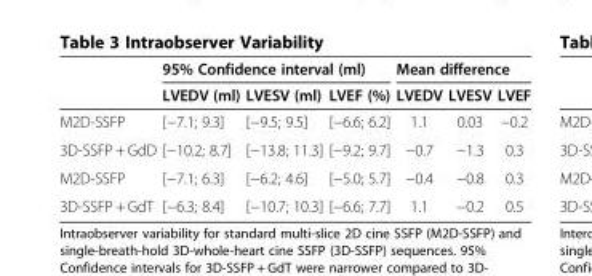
<table><thead><tr><td rowspan="2"></td><td colspan="3">95% Confidence interval (ml)</td><td colspan="3">Mean difference</td></tr><tr><td>LVEDV (ml)</td><td>LVESV (ml)</td><td>LVEF (%)</td><td>LVEDV</td><td>LVESV</td><td>LVEF</td></tr></thead><tbody><tr><td>M2D-SSFP</td><td>[−7.1; 9.3]</td><td>[−9.5; 9.5]</td><td>[−6.6; 6.2]</td><td>1.1</td><td>0.03</td><td>−0.2</td></tr><tr><td>3D-SSFP + GdD</td><td>[−10.2; 8.7]</td><td>[−13.8; 11.3]</td><td>[−9.2; 9.7]</td><td>−0.7</td><td>−1.3</td><td>0.3</td></tr><tr><td>M2D-SSFP</td><td>[−7.1; 6.3]</td><td>[−6.2; 4.6]</td><td>[−5.0; 5.7]</td><td>−0.4</td><td>−0.8</td><td>0.3</td></tr><tr><td>3D-SSFP + GdT</td><td>[−6.3; 8.4]</td><td>[−10.7; 10.3]</td><td>[−6.6; 7.7]</td><td>1.1</td><td>−0.2</td><td>0.5</td></tr></tbody></table>